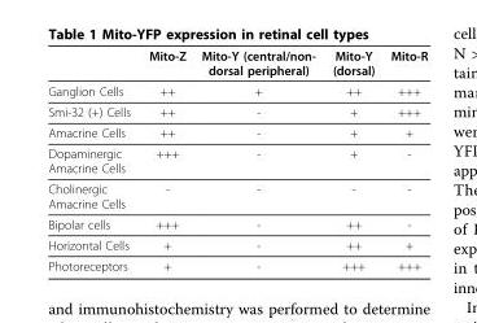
<table><thead><tr><td></td><td>Mito-Z</td><td>Mito-Y (central/non- dorsal peripheral)</td><td>Mito-Y (dorsal)</td><td>Mito-R</td></tr></thead><tbody><tr><td>Ganglion Cells</td><td>++</td><td>+</td><td>++</td><td>+++</td></tr><tr><td>Smi-32 (+) Cells</td><td>++</td><td>-</td><td>+</td><td>+++</td></tr><tr><td>Amacrine Cells</td><td>++</td><td>-</td><td>+</td><td>+</td></tr><tr><td>Dopaminergic Amacrine Cells</td><td>+++</td><td>-</td><td>+</td><td>-</td></tr><tr><td>Cholinergic Amacrine Cells</td><td>-</td><td>-</td><td>-</td><td>-</td></tr><tr><td>Bipolar cells</td><td>+++</td><td>-</td><td>++</td><td>-</td></tr><tr><td>Horizontal Cells</td><td>+</td><td>-</td><td>++</td><td>+</td></tr><tr><td>Photoreceptors</td><td>+</td><td>-</td><td>+++</td><td>+++</td></tr></tbody></table>